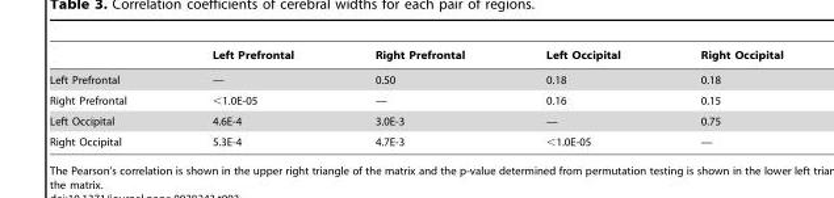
<table><thead><tr><td></td><td>Left Prefrontal</td><td>Right Prefrontal</td><td>Left Occipital</td><td>Right Occipital</td></tr></thead><tbody><tr><td>Left Prefrontal</td><td>—</td><td>0.50</td><td>0.18</td><td>0.18</td></tr><tr><td>Right Prefrontal</td><td>&lt;1.0E-05</td><td>—</td><td>0.16</td><td>0.15</td></tr><tr><td>Left Occipital</td><td>4.6E-4</td><td>3.0E-3</td><td>—</td><td>0.75</td></tr><tr><td>Right Occipital</td><td>5.3E-4</td><td>4.7E-3</td><td>&lt;1.0E-05</td><td>—</td></tr></tbody></table>